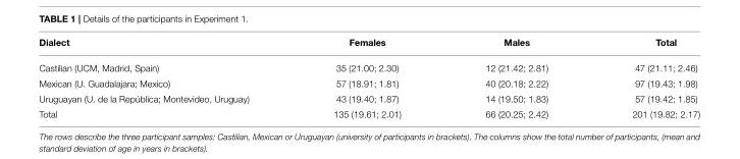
<table><thead><tr><td>Dialect</td><td>Females</td><td>Males</td><td>Total</td></tr></thead><tbody><tr><td>Castilian (UCM, Madrid, Spain)</td><td>35 (21.00; 2.30)</td><td>12 (21.42; 2.81)</td><td>47 (21.11; 2.46)</td></tr><tr><td>Mexican (U. Guadalajara; Mexico)</td><td>57 (18.91; 1.81)</td><td>40 (20.18; 2.22)</td><td>97 (19.43; 1.98)</td></tr><tr><td>Uruguayan (U. de la República; Montevideo, Uruguay)</td><td>43 (19.40; 1.87)</td><td>14 (19.50; 1.83)</td><td>57 (19.42; 1.85)</td></tr><tr><td>Total</td><td>135 (19.61; 2.01)</td><td>66 (20.25; 2.42)</td><td>201 (19.82; 2.17)</td></tr></tbody></table>